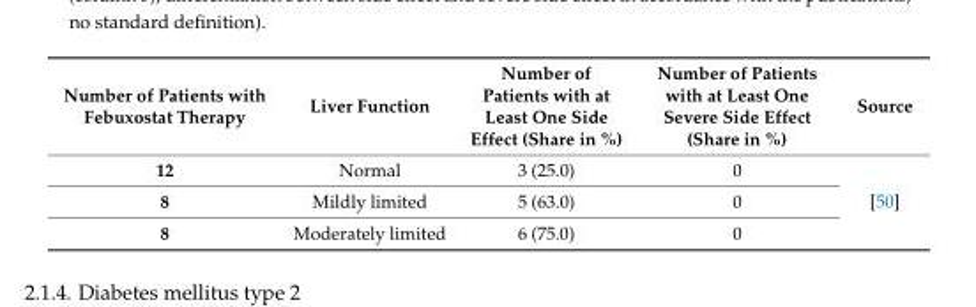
<table><thead><tr><td>Number of Patients with Febuxostat Therapy</td><td>Liver Function</td><td>Number of Patients with at Least One Side Effect (Share in %)</td><td>Number of Patients with at Least One Severe Side Effect (Share in %)</td><td>Source</td></tr></thead><tbody><tr><td>12</td><td>Normal</td><td>3 (25.0)</td><td>0</td><td rowspan="3">[50]</td></tr><tr><td>8</td><td>Mildly limited</td><td>5 (63.0)</td><td>0</td></tr><tr><td>8</td><td>Moderately limited</td><td>6 (75.0)</td><td>0</td></tr></tbody></table>